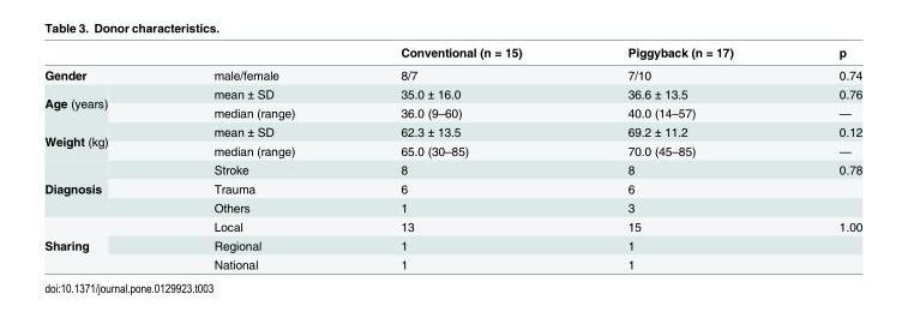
<table><thead><tr><td></td><td></td><td>Conventional (n = 15)</td><td>Piggyback (n = 17)</td><td>p</td></tr></thead><tbody><tr><td>Gender</td><td>male/female</td><td>8/7</td><td>7/10</td><td>0.74</td></tr><tr><td rowspan="2">Age (years)</td><td>mean ± SD</td><td>35.0 ± 16.0</td><td>36.6 ± 13.5</td><td>0.76</td></tr><tr><td>median (range)</td><td>36.0 (9–60)</td><td>40.0 (14–57)</td><td>—</td></tr><tr><td rowspan="2">Weight (kg)</td><td>mean ± SD</td><td>62.3 ± 13.5</td><td>69.2 ± 11.2</td><td>0.12</td></tr><tr><td>median (range)</td><td>65.0 (30–85)</td><td>70.0 (45–85)</td><td>—</td></tr><tr><td rowspan="3">Diagnosis</td><td>Stroke</td><td>8</td><td>8</td><td>0.78</td></tr><tr><td>Trauma</td><td>6</td><td>6</td><td></td></tr><tr><td>Others</td><td>1</td><td>3</td><td></td></tr><tr><td rowspan="3">Sharing</td><td>Local</td><td>13</td><td>15</td><td>1.00</td></tr><tr><td>Regional</td><td>1</td><td>1</td><td></td></tr><tr><td>National</td><td>1</td><td>1</td><td></td></tr></tbody></table>